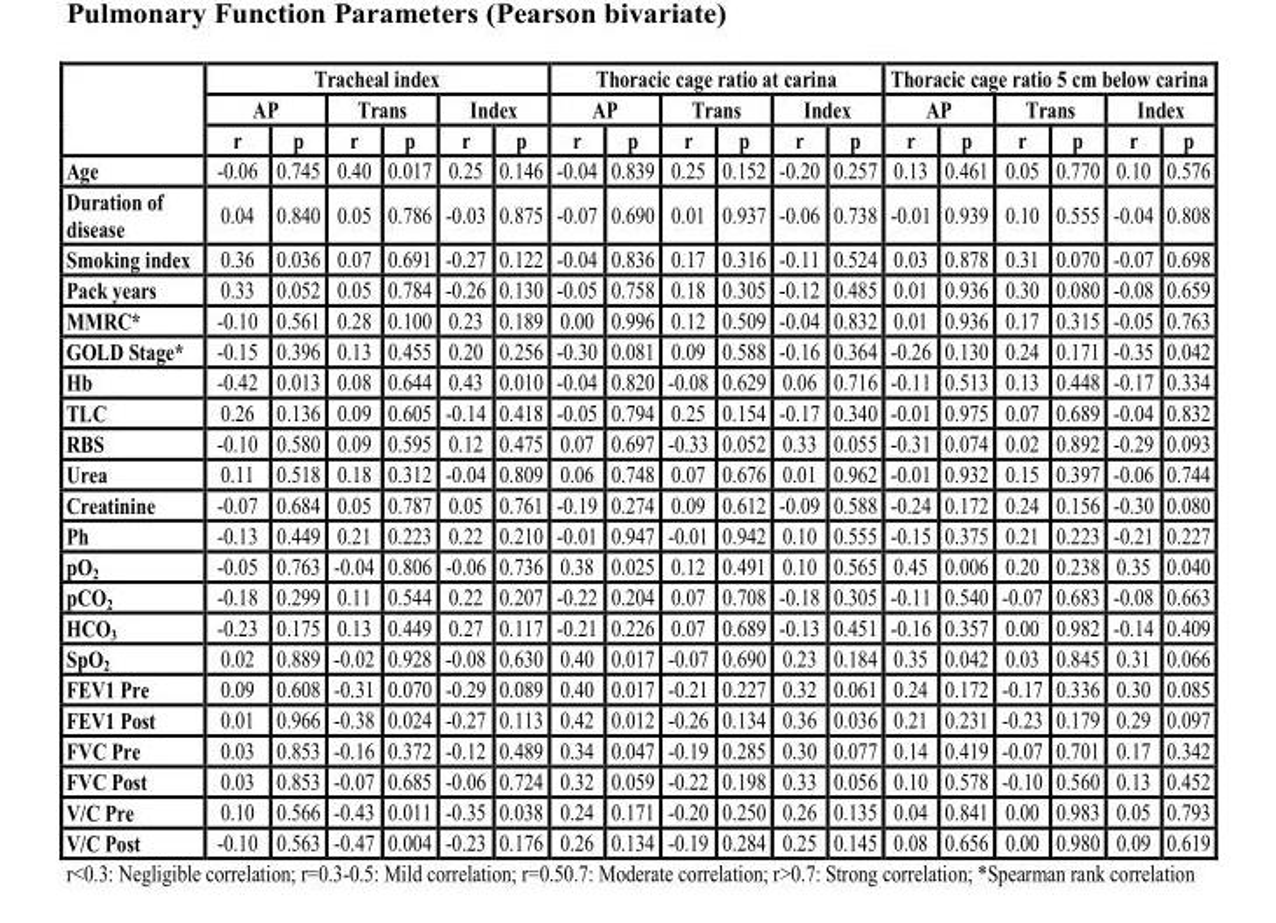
<table><thead><tr><td rowspan="3"></td><td colspan="6">Tracheal index</td><td colspan="6">Thoracic cage ratio at carina</td><td colspan="6">Thoracic cage ratio 5 cm below carina</td></tr><tr><td colspan="2">AP</td><td colspan="2">Trans</td><td colspan="2">Index</td><td colspan="2">AP</td><td colspan="2">Trans</td><td colspan="2">Index</td><td colspan="2">AP</td><td colspan="2">Trans</td><td colspan="2">Index</td></tr><tr><td>r</td><td>p</td><td>r</td><td>p</td><td>r</td><td>p</td><td>r</td><td>p</td><td>r</td><td>p</td><td>r</td><td>p</td><td>r</td><td>p</td><td>r</td><td>p</td><td>r</td><td>p</td></tr></thead><tbody><tr><td>Age</td><td>-0.06</td><td>0.745</td><td>0.40</td><td>0.017</td><td>0.25</td><td>0.146</td><td>-0.04</td><td>0.839</td><td>0.25</td><td>0.152</td><td>-0.20</td><td>0.257</td><td>0.13</td><td>0.461</td><td>0.05</td><td>0.770</td><td>0.10</td><td>0.576</td></tr><tr><td>Duration of disease</td><td>0.04</td><td>0.840</td><td>0.05</td><td>0.786</td><td>-0.03</td><td>0.875</td><td>-0.07</td><td>0.690</td><td>0.01</td><td>0.937</td><td>-0.06</td><td>0.738</td><td>-0.01</td><td>0.939</td><td>0.10</td><td>0.555</td><td>-0.04</td><td>0.808</td></tr><tr><td>Smoking index</td><td>0.36</td><td>0.036</td><td>0.07</td><td>0.691</td><td>-0.27</td><td>0.122</td><td>-0.04</td><td>0.836</td><td>0.17</td><td>0.316</td><td>-0.11</td><td>0.524</td><td>0.03</td><td>0.878</td><td>0.31</td><td>0.070</td><td>-0.07</td><td>0.698</td></tr><tr><td>Pack years</td><td>0.33</td><td>0.052</td><td>0.05</td><td>0.784</td><td>-0.26</td><td>0.130</td><td>-0.05</td><td>0.758</td><td>0.18</td><td>0.305</td><td>-0.12</td><td>0.485</td><td>0.01</td><td>0.936</td><td>0.30</td><td>0.080</td><td>-0.08</td><td>0.659</td></tr><tr><td>MMRC*</td><td>-0.10</td><td>0.561</td><td>0.28</td><td>0.100</td><td>0.23</td><td>0.189</td><td>0.00</td><td>0.996</td><td>0.12</td><td>0.509</td><td>-0.04</td><td>0.832</td><td>0.01</td><td>0.936</td><td>0.17</td><td>0.315</td><td>-0.05</td><td>0.763</td></tr><tr><td>GOLD Stage*</td><td>-0.15</td><td>0.396</td><td>0.13</td><td>0.455</td><td>0.20</td><td>0.256</td><td>-0.30</td><td>0.081</td><td>0.09</td><td>0.588</td><td>-0.16</td><td>0.364</td><td>-0.26</td><td>0.130</td><td>0.24</td><td>0.171</td><td>-0.35</td><td>0.042</td></tr><tr><td>Hb</td><td>-0.42</td><td>0.013</td><td>0.08</td><td>0.644</td><td>0.43</td><td>0.010</td><td>-0.04</td><td>0.820</td><td>-0.08</td><td>0.629</td><td>0.06</td><td>0.716</td><td>-0.11</td><td>0.513</td><td>0.13</td><td>0.448</td><td>-0.17</td><td>0.334</td></tr><tr><td>TLC</td><td>0.26</td><td>0.136</td><td>0.09</td><td>0.605</td><td>-0.14</td><td>0.418</td><td>-0.05</td><td>0.794</td><td>0.25</td><td>0.154</td><td>-0.17</td><td>0.340</td><td>-0.01</td><td>0.975</td><td>0.07</td><td>0.689</td><td>-0.04</td><td>0.832</td></tr><tr><td>RBS</td><td>-0.10</td><td>0.580</td><td>0.09</td><td>0.595</td><td>0.12</td><td>0.475</td><td>0.07</td><td>0.697</td><td>-0.33</td><td>0.052</td><td>0.33</td><td>0.055</td><td>-0.31</td><td>0.074</td><td>0.02</td><td>0.892</td><td>-0.29</td><td>0.093</td></tr><tr><td>Urea</td><td>0.11</td><td>0.518</td><td>0.18</td><td>0.312</td><td>-0.04</td><td>0.809</td><td>0.06</td><td>0.748</td><td>0.07</td><td>0.676</td><td>0.01</td><td>0.962</td><td>-0.01</td><td>0.932</td><td>0.15</td><td>0.397</td><td>-0.06</td><td>0.744</td></tr><tr><td>Creatinine</td><td>-0.07</td><td>0.684</td><td>0.05</td><td>0.787</td><td>0.05</td><td>0.761</td><td>-0.19</td><td>0.274</td><td>0.09</td><td>0.612</td><td>-0.09</td><td>0.588</td><td>-0.24</td><td>0.172</td><td>0.24</td><td>0.156</td><td>-0.30</td><td>0.080</td></tr><tr><td>Ph</td><td>-0.13</td><td>0.449</td><td>0.21</td><td>0.223</td><td>0.22</td><td>0.210</td><td>-0.01</td><td>0.947</td><td>-0.01</td><td>0.942</td><td>0.10</td><td>0.555</td><td>-0.15</td><td>0.375</td><td>0.21</td><td>0.223</td><td>-0.21</td><td>0.227</td></tr><tr><td>pO<sub>2</sub></td><td>-0.05</td><td>0.763</td><td>-0.04</td><td>0.806</td><td>-0.06</td><td>0.736</td><td>0.38</td><td>0.025</td><td>0.12</td><td>0.491</td><td>0.10</td><td>0.565</td><td>0.45</td><td>0.006</td><td>0.20</td><td>0.238</td><td>0.35</td><td>0.040</td></tr><tr><td>pCO<sub>2</sub></td><td>-0.18</td><td>0.299</td><td>0.11</td><td>0.544</td><td>0.22</td><td>0.207</td><td>-0.22</td><td>0.204</td><td>0.07</td><td>0.708</td><td>-0.18</td><td>0.305</td><td>-0.11</td><td>0.540</td><td>-0.07</td><td>0.683</td><td>-0.08</td><td>0.663</td></tr><tr><td>HCO<sub>3</sub></td><td>-0.23</td><td>0.175</td><td>0.13</td><td>0.449</td><td>0.27</td><td>0.117</td><td>-0.21</td><td>0.226</td><td>0.07</td><td>0.689</td><td>-0.13</td><td>0.451</td><td>-0.16</td><td>0.357</td><td>0.00</td><td>0.982</td><td>-0.14</td><td>0.409</td></tr><tr><td>SpO<sub>2</sub></td><td>0.02</td><td>0.889</td><td>-0.02</td><td>0.928</td><td>-0.08</td><td>0.630</td><td>0.40</td><td>0.017</td><td>-0.07</td><td>0.690</td><td>0.23</td><td>0.184</td><td>0.35</td><td>0.042</td><td>0.03</td><td>0.845</td><td>0.31</td><td>0.066</td></tr><tr><td>FEV1 Pre</td><td>0.09</td><td>0.608</td><td>-0.31</td><td>0.070</td><td>-0.29</td><td>0.089</td><td>0.40</td><td>0.017</td><td>-0.21</td><td>0.227</td><td>0.32</td><td>0.061</td><td>0.24</td><td>0.172</td><td>-0.17</td><td>0.336</td><td>0.30</td><td>0.085</td></tr><tr><td>FEV1 Post</td><td>0.01</td><td>0.966</td><td>-0.38</td><td>0.024</td><td>-0.27</td><td>0.113</td><td>0.42</td><td>0.012</td><td>-0.26</td><td>0.134</td><td>0.36</td><td>0.036</td><td>0.21</td><td>0.231</td><td>-0.23</td><td>0.179</td><td>0.29</td><td>0.097</td></tr><tr><td>FVC Pre</td><td>0.03</td><td>0.853</td><td>-0.16</td><td>0.372</td><td>-0.12</td><td>0.489</td><td>0.34</td><td>0.047</td><td>-0.19</td><td>0.285</td><td>0.30</td><td>0.077</td><td>0.14</td><td>0.419</td><td>-0.07</td><td>0.701</td><td>0.17</td><td>0.342</td></tr><tr><td>FVC Post</td><td>0.03</td><td>0.853</td><td>-0.07</td><td>0.685</td><td>-0.06</td><td>0.724</td><td>0.32</td><td>0.059</td><td>-0.22</td><td>0.198</td><td>0.33</td><td>0.056</td><td>0.10</td><td>0.578</td><td>-0.10</td><td>0.560</td><td>0.13</td><td>0.452</td></tr><tr><td>V/C Pre</td><td>0.10</td><td>0.566</td><td>-0.43</td><td>0.011</td><td>-0.35</td><td>0.038</td><td>0.24</td><td>0.171</td><td>-0.20</td><td>0.250</td><td>0.26</td><td>0.135</td><td>0.04</td><td>0.841</td><td>0.00</td><td>0.983</td><td>0.05</td><td>0.793</td></tr><tr><td>V/C Post</td><td>-0.10</td><td>0.563</td><td>-0.47</td><td>0.004</td><td>-0.23</td><td>0.176</td><td>0.26</td><td>0.134</td><td>-0.19</td><td>0.284</td><td>0.25</td><td>0.145</td><td>0.08</td><td>0.656</td><td>0.00</td><td>0.980</td><td>0.09</td><td>0.619</td></tr></tbody></table>